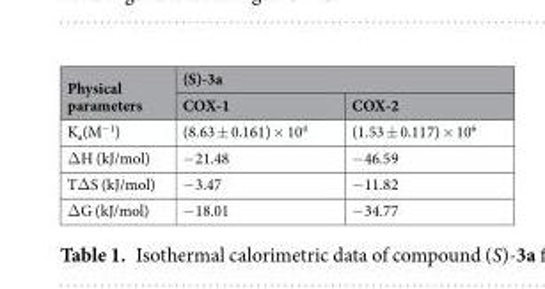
<table><thead><tr><td rowspan="2">Physical parameters</td><td colspan="2">(S)-3a</td></tr><tr><td>COX-1</td><td>COX-2</td></tr></thead><tbody><tr><td>K<sub>a</sub>(M<sup>−1</sup>)</td><td>(8.63 ± 0.161) × 10<sup>4</sup></td><td>(1.53 ± 0.117) × 10<sup>6</sup></td></tr><tr><td>ΔH (kJ/mol)</td><td>−21.48</td><td>−46.59</td></tr><tr><td>TΔS (kJ/mol)</td><td>−3.47</td><td>−11.82</td></tr><tr><td>ΔG (kJ/mol)</td><td>−18.01</td><td>−34.77</td></tr></tbody></table>